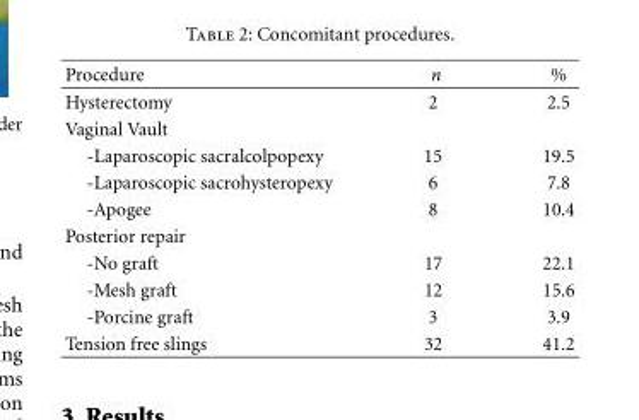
<table><thead><tr><td>Procedure</td><td>n</td><td>%</td></tr></thead><tbody><tr><td>Hysterectomy</td><td>2</td><td>2.5</td></tr><tr><td colspan="3">Vaginal Vault</td></tr><tr><td>-Laparoscopic sacralcolpopexy</td><td>15</td><td>19.5</td></tr><tr><td>-Laparoscopic sacrohysteropexy</td><td>6</td><td>7.8</td></tr><tr><td>-Apogee</td><td>8</td><td>10.4</td></tr><tr><td colspan="3">Posterior repair</td></tr><tr><td>-No graft</td><td>17</td><td>22.1</td></tr><tr><td>-Mesh graft</td><td>12</td><td>15.6</td></tr><tr><td>-Porcine graft</td><td>3</td><td>3.9</td></tr><tr><td>Tension free slings</td><td>32</td><td>41.2</td></tr></tbody></table>